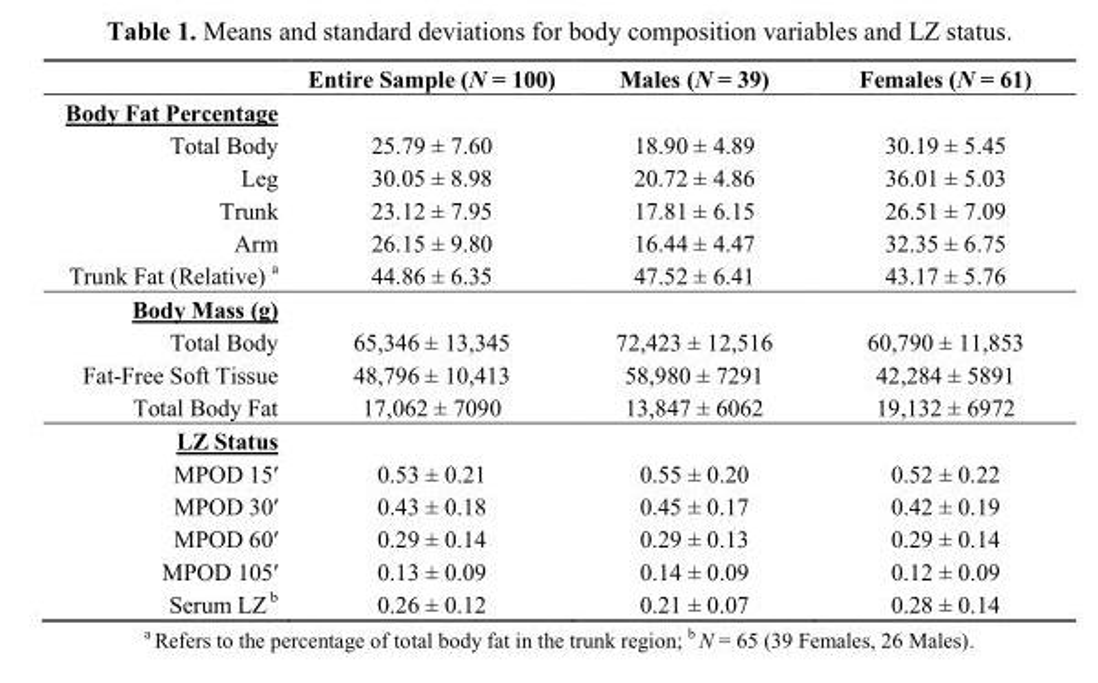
<table><thead><tr><td></td><td>Entire Sample (N = 100)</td><td>Males (N = 39)</td><td>Females (N = 61)</td></tr></thead><tbody><tr><td colspan="4">Body Fat Percentage</td></tr><tr><td>Total Body</td><td>25.79 ± 7.60</td><td>18.90 ± 4.89</td><td>30.19 ± 5.45</td></tr><tr><td>Leg</td><td>30.05 ± 8.98</td><td>20.72 ± 4.86</td><td>36.01 ± 5.03</td></tr><tr><td>Trunk</td><td>23.12 ± 7.95</td><td>17.81 ± 6.15</td><td>26.51 ± 7.09</td></tr><tr><td>Arm</td><td>26.15 ± 9.80</td><td>16.44 ± 4.47</td><td>32.35 ± 6.75</td></tr><tr><td>Trunk Fat (Relative) <sup>a</sup></td><td>44.86 ± 6.35</td><td>47.52 ± 6.41</td><td>43.17 ± 5.76</td></tr><tr><td colspan="4">Body Mass (g)</td></tr><tr><td>Total Body</td><td>65,346 ± 13,345</td><td>72,423 ± 12,516</td><td>60,790 ± 11,853</td></tr><tr><td>Fat-Free Soft Tissue</td><td>48,796 ± 10,413</td><td>58,980 ± 7291</td><td>42,284 ± 5891</td></tr><tr><td>Total Body Fat</td><td>17,062 ± 7090</td><td>13,847 ± 6062</td><td>19,132 ± 6972</td></tr><tr><td colspan="4">LZ Status</td></tr><tr><td>MPOD 15′</td><td>0.53 ± 0.21</td><td>0.55 ± 0.20</td><td>0.52 ± 0.22</td></tr><tr><td>MPOD 30′</td><td>0.43 ± 0.18</td><td>0.45 ± 0.17</td><td>0.42 ± 0.19</td></tr><tr><td>MPOD 60′</td><td>0.29 ± 0.14</td><td>0.29 ± 0.13</td><td>0.29 ± 0.14</td></tr><tr><td>MPOD 105′</td><td>0.13 ± 0.09</td><td>0.14 ± 0.09</td><td>0.12 ± 0.09</td></tr><tr><td>Serum LZ <sup>b</sup></td><td>0.26 ± 0.12</td><td>0.21 ± 0.07</td><td>0.28 ± 0.14</td></tr></tbody></table>